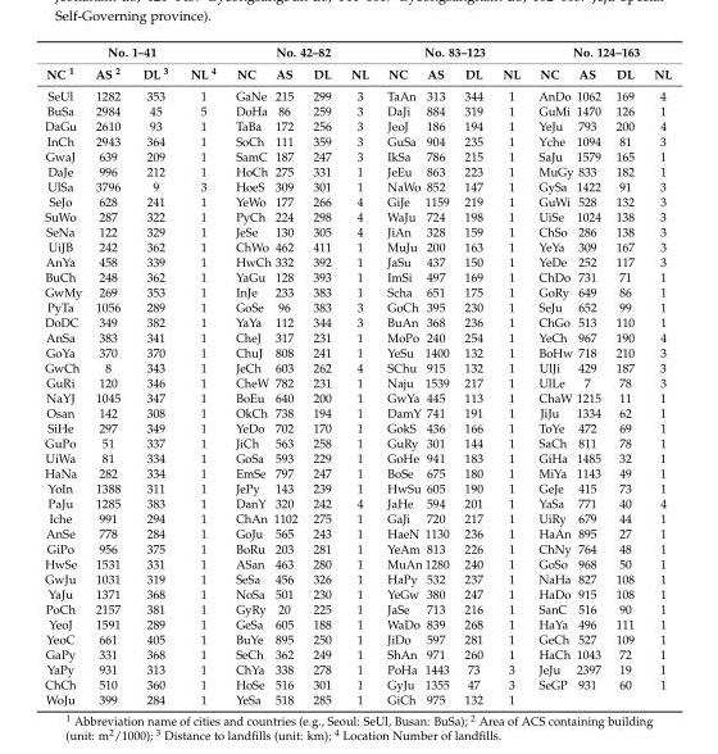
<table><thead><tr><td colspan="4">No. 1–41</td><td colspan="4">No. 42–82</td><td colspan="4">No. 83–123</td><td colspan="4">No. 124–163</td></tr><tr><td>NC <sup>1</sup></td><td>AS <sup>2</sup></td><td>DL <sup>3</sup></td><td>NL <sup>4</sup></td><td>NC</td><td>AS</td><td>DL</td><td>NL</td><td>NC</td><td>AS</td><td>DL</td><td>NL</td><td>NC</td><td>AS</td><td>DL</td><td>NL</td></tr></thead><tbody><tr><td>SeUl</td><td>1282</td><td>353</td><td>1</td><td>GaNe</td><td>215</td><td>299</td><td>3</td><td>TaAn</td><td>313</td><td>344</td><td>1</td><td>AnDo</td><td>1062</td><td>169</td><td>4</td></tr><tr><td>BuSa</td><td>2984</td><td>45</td><td>5</td><td>DoHa</td><td>86</td><td>259</td><td>3</td><td>DaJi</td><td>884</td><td>319</td><td>1</td><td>GuMi</td><td>1470</td><td>126</td><td>1</td></tr><tr><td>DaGu</td><td>2610</td><td>93</td><td>1</td><td>TaBa</td><td>172</td><td>256</td><td>3</td><td>JeoJ</td><td>186</td><td>194</td><td>1</td><td>YeJu</td><td>793</td><td>200</td><td>4</td></tr><tr><td>InCh</td><td>2943</td><td>364</td><td>1</td><td>SoCh</td><td>111</td><td>359</td><td>3</td><td>GuSa</td><td>904</td><td>235</td><td>1</td><td>Yche</td><td>1094</td><td>81</td><td>3</td></tr><tr><td>GwaJ</td><td>639</td><td>209</td><td>1</td><td>SamC</td><td>187</td><td>247</td><td>3</td><td>IkSa</td><td>786</td><td>215</td><td>1</td><td>SaJu</td><td>1579</td><td>165</td><td>1</td></tr><tr><td>DaJe</td><td>996</td><td>212</td><td>1</td><td>HoCh</td><td>275</td><td>331</td><td>1</td><td>JeEu</td><td>863</td><td>223</td><td>1</td><td>MuGy</td><td>833</td><td>182</td><td>1</td></tr><tr><td>UlSa</td><td>3796</td><td>9</td><td>3</td><td>HoeS</td><td>309</td><td>301</td><td>1</td><td>NaWo</td><td>852</td><td>147</td><td>1</td><td>GySa</td><td>1422</td><td>91</td><td>3</td></tr><tr><td>SeJo</td><td>628</td><td>241</td><td>1</td><td>YeWo</td><td>177</td><td>266</td><td>4</td><td>GiJe</td><td>1159</td><td>219</td><td>1</td><td>GuWi</td><td>528</td><td>132</td><td>3</td></tr><tr><td>SuWo</td><td>287</td><td>322</td><td>1</td><td>PyCh</td><td>224</td><td>298</td><td>4</td><td>WaJu</td><td>724</td><td>198</td><td>1</td><td>UiSe</td><td>1024</td><td>138</td><td>3</td></tr><tr><td>SeNa</td><td>122</td><td>329</td><td>1</td><td>JeSe</td><td>130</td><td>305</td><td>4</td><td>JiAn</td><td>328</td><td>159</td><td>1</td><td>ChSo</td><td>286</td><td>138</td><td>3</td></tr><tr><td>UiJB</td><td>242</td><td>362</td><td>1</td><td>ChWo</td><td>462</td><td>411</td><td>1</td><td>MuJu</td><td>200</td><td>163</td><td>1</td><td>YeYa</td><td>309</td><td>167</td><td>3</td></tr><tr><td>AnYa</td><td>458</td><td>339</td><td>1</td><td>HwCh</td><td>332</td><td>392</td><td>1</td><td>JaSu</td><td>437</td><td>150</td><td>1</td><td>YeDe</td><td>252</td><td>117</td><td>3</td></tr><tr><td>BuCh</td><td>248</td><td>362</td><td>1</td><td>YaGu</td><td>128</td><td>393</td><td>1</td><td>ImSi</td><td>497</td><td>169</td><td>1</td><td>ChDo</td><td>731</td><td>71</td><td>1</td></tr><tr><td>GwMy</td><td>269</td><td>353</td><td>1</td><td>InJe</td><td>233</td><td>383</td><td>1</td><td>Scha</td><td>651</td><td>175</td><td>1</td><td>GoRy</td><td>649</td><td>86</td><td>1</td></tr><tr><td>PyTa</td><td>1056</td><td>289</td><td>1</td><td>GoSe</td><td>96</td><td>383</td><td>3</td><td>GoCh</td><td>395</td><td>230</td><td>1</td><td>SeJu</td><td>652</td><td>99</td><td>1</td></tr><tr><td>DoDC</td><td>349</td><td>382</td><td>1</td><td>YaYa</td><td>112</td><td>344</td><td>3</td><td>BuAn</td><td>368</td><td>236</td><td>1</td><td>ChGo</td><td>513</td><td>110</td><td>1</td></tr><tr><td>AnSa</td><td>383</td><td>341</td><td>1</td><td>CheJ</td><td>317</td><td>231</td><td>1</td><td>MoPo</td><td>240</td><td>254</td><td>1</td><td>YeCh</td><td>967</td><td>190</td><td>4</td></tr><tr><td>GoYa</td><td>370</td><td>370</td><td>1</td><td>ChuJ</td><td>808</td><td>241</td><td>1</td><td>YeSu</td><td>1400</td><td>132</td><td>1</td><td>BoHw</td><td>718</td><td>210</td><td>3</td></tr><tr><td>GwCh</td><td>8</td><td>343</td><td>1</td><td>JeCh</td><td>603</td><td>262</td><td>4</td><td>SChu</td><td>915</td><td>132</td><td>1</td><td>UlJi</td><td>429</td><td>187</td><td>3</td></tr><tr><td>GuRi</td><td>120</td><td>346</td><td>1</td><td>CheW</td><td>782</td><td>231</td><td>1</td><td>Naju</td><td>1539</td><td>217</td><td>1</td><td>UlLe</td><td>7</td><td>78</td><td>3</td></tr><tr><td>NaYJ</td><td>1045</td><td>347</td><td>1</td><td>BoEu</td><td>640</td><td>200</td><td>1</td><td>GwYa</td><td>445</td><td>113</td><td>1</td><td>ChaW</td><td>1215</td><td>11</td><td>1</td></tr><tr><td>Osan</td><td>142</td><td>308</td><td>1</td><td>OkCh</td><td>738</td><td>194</td><td>1</td><td>DamY</td><td>741</td><td>191</td><td>1</td><td>JiJu</td><td>1334</td><td>62</td><td>1</td></tr><tr><td>SiHe</td><td>297</td><td>349</td><td>1</td><td>YeDo</td><td>702</td><td>170</td><td>1</td><td>GokS</td><td>436</td><td>166</td><td>1</td><td>ToYe</td><td>472</td><td>69</td><td>1</td></tr><tr><td>GuPo</td><td>51</td><td>337</td><td>1</td><td>JiCh</td><td>563</td><td>258</td><td>1</td><td>GuRy</td><td>301</td><td>144</td><td>1</td><td>SaCh</td><td>811</td><td>78</td><td>1</td></tr><tr><td>UiWa</td><td>81</td><td>334</td><td>1</td><td>GoSa</td><td>593</td><td>229</td><td>1</td><td>GoHe</td><td>941</td><td>183</td><td>1</td><td>GiHa</td><td>1485</td><td>32</td><td>1</td></tr><tr><td>HaNa</td><td>282</td><td>334</td><td>1</td><td>EmSe</td><td>797</td><td>247</td><td>1</td><td>BoSe</td><td>675</td><td>180</td><td>1</td><td>MiYa</td><td>1143</td><td>49</td><td>1</td></tr><tr><td>YoIn</td><td>1388</td><td>311</td><td>1</td><td>JePy</td><td>143</td><td>239</td><td>1</td><td>HwSu</td><td>605</td><td>190</td><td>1</td><td>GeJe</td><td>415</td><td>73</td><td>1</td></tr><tr><td>PaJu</td><td>1285</td><td>383</td><td>1</td><td>DanY</td><td>320</td><td>242</td><td>4</td><td>JaHe</td><td>594</td><td>201</td><td>1</td><td>YaSa</td><td>771</td><td>40</td><td>4</td></tr><tr><td>Iche</td><td>991</td><td>294</td><td>1</td><td>ChAn</td><td>1102</td><td>275</td><td>1</td><td>GaJi</td><td>720</td><td>217</td><td>1</td><td>UiRy</td><td>679</td><td>44</td><td>1</td></tr><tr><td>AnSe</td><td>778</td><td>284</td><td>1</td><td>GoJu</td><td>565</td><td>243</td><td>1</td><td>HaeN</td><td>1130</td><td>236</td><td>1</td><td>HaAn</td><td>895</td><td>27</td><td>1</td></tr><tr><td>GiPo</td><td>956</td><td>375</td><td>1</td><td>BoRu</td><td>203</td><td>281</td><td>1</td><td>YeAm</td><td>813</td><td>226</td><td>1</td><td>ChNy</td><td>764</td><td>48</td><td>1</td></tr><tr><td>HwSe</td><td>1531</td><td>331</td><td>1</td><td>ASan</td><td>463</td><td>280</td><td>1</td><td>MuAn</td><td>1280</td><td>240</td><td>1</td><td>GoSo</td><td>968</td><td>50</td><td>1</td></tr><tr><td>GwJu</td><td>1031</td><td>319</td><td>1</td><td>SeSa</td><td>456</td><td>326</td><td>1</td><td>HaPy</td><td>532</td><td>237</td><td>1</td><td>NaHa</td><td>827</td><td>108</td><td>1</td></tr><tr><td>YaJu</td><td>1371</td><td>368</td><td>1</td><td>NoSa</td><td>501</td><td>230</td><td>1</td><td>YeGw</td><td>380</td><td>247</td><td>1</td><td>HaDo</td><td>915</td><td>108</td><td>1</td></tr><tr><td>PoCh</td><td>2157</td><td>381</td><td>1</td><td>GyRy</td><td>20</td><td>225</td><td>1</td><td>JaSe</td><td>713</td><td>216</td><td>1</td><td>SanC</td><td>516</td><td>90</td><td>1</td></tr><tr><td>YeoJ</td><td>1591</td><td>289</td><td>1</td><td>GeSa</td><td>605</td><td>188</td><td>1</td><td>WaDo</td><td>839</td><td>268</td><td>1</td><td>HaYa</td><td>496</td><td>111</td><td>1</td></tr><tr><td>YeoC</td><td>661</td><td>405</td><td>1</td><td>BuYe</td><td>895</td><td>250</td><td>1</td><td>JiDo</td><td>597</td><td>281</td><td>1</td><td>GeCh</td><td>527</td><td>109</td><td>1</td></tr><tr><td>GaPy</td><td>331</td><td>368</td><td>1</td><td>SeCh</td><td>362</td><td>249</td><td>1</td><td>ShAn</td><td>971</td><td>260</td><td>1</td><td>HaCh</td><td>1043</td><td>72</td><td>1</td></tr><tr><td>YaPy</td><td>931</td><td>313</td><td>1</td><td>ChYa</td><td>338</td><td>278</td><td>1</td><td>PoHa</td><td>1443</td><td>73</td><td>3</td><td>JeJu</td><td>2397</td><td>19</td><td>1</td></tr><tr><td>ChCh</td><td>510</td><td>360</td><td>1</td><td>HoSe</td><td>516</td><td>301</td><td>1</td><td>GyJu</td><td>1355</td><td>47</td><td>3</td><td>SeGP</td><td>931</td><td>60</td><td>1</td></tr><tr><td>WoJu</td><td>399</td><td>284</td><td>1</td><td>YeSa</td><td>518</td><td>285</td><td>1</td><td>GiCh</td><td>975</td><td>132</td><td>1</td><td></td><td></td><td></td><td></td></tr></tbody></table>